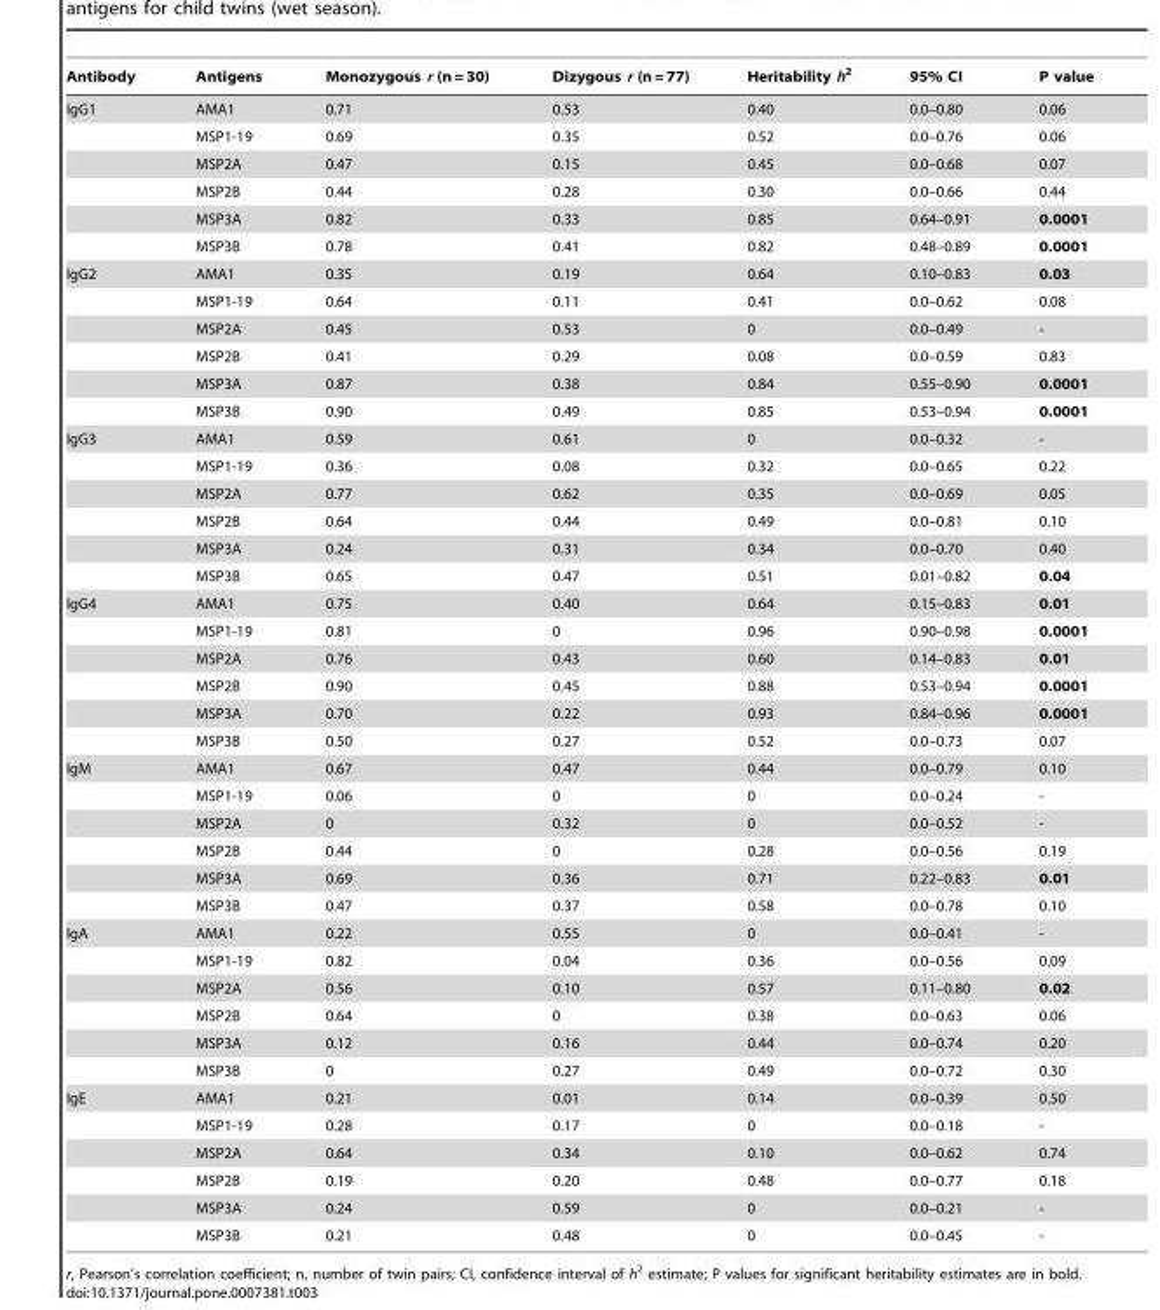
<table><thead><tr><td>Antibody</td><td>Antigens</td><td>Monozygous r (n = 30)</td><td>Dizygous r (n = 77)</td><td>Heritability h<sup>2</sup></td><td>95% CI</td><td>P value</td></tr></thead><tbody><tr><td rowspan="6">IgG1</td><td>AMA1</td><td>0.71</td><td>0.53</td><td>0.40</td><td>0.0–0.80</td><td>0.06</td></tr><tr><td>MSP1-19</td><td>0.69</td><td>0.35</td><td>0.52</td><td>0.0–0.76</td><td>0.06</td></tr><tr><td>MSP2A</td><td>0.47</td><td>0.15</td><td>0.45</td><td>0.0–0.68</td><td>0.07</td></tr><tr><td>MSP2B</td><td>0.44</td><td>0.28</td><td>0.30</td><td>0.0–0.66</td><td>0.44</td></tr><tr><td>MSP3A</td><td>0.82</td><td>0.33</td><td>0.85</td><td>0.64–0.91</td><td>0.0001</td></tr><tr><td>MSP3B</td><td>0.78</td><td>0.41</td><td>0.82</td><td>0.48–0.89</td><td>0.0001</td></tr><tr><td rowspan="6">IgG2</td><td>AMA1</td><td>0.35</td><td>0.19</td><td>0.64</td><td>0.10–0.83</td><td>0.03</td></tr><tr><td>MSP1-19</td><td>0.64</td><td>0.11</td><td>0.41</td><td>0.0–0.62</td><td>0.08</td></tr><tr><td>MSP2A</td><td>0.45</td><td>0.53</td><td>0</td><td>0.0–0.49</td><td>-</td></tr><tr><td>MSP2B</td><td>0.41</td><td>0.29</td><td>0.08</td><td>0.0–0.59</td><td>0.83</td></tr><tr><td>MSP3A</td><td>0.87</td><td>0.38</td><td>0.84</td><td>0.55–0.90</td><td>0.0001</td></tr><tr><td>MSP3B</td><td>0.90</td><td>0.49</td><td>0.85</td><td>0.53–0.94</td><td>0.0001</td></tr><tr><td rowspan="6">IgG3</td><td>AMA1</td><td>0.59</td><td>0.61</td><td>0</td><td>0.0–0.32</td><td>-</td></tr><tr><td>MSP1-19</td><td>0.36</td><td>0.08</td><td>0.32</td><td>0.0–0.65</td><td>0.22</td></tr><tr><td>MSP2A</td><td>0.77</td><td>0.62</td><td>0.35</td><td>0.0–0.69</td><td>0.05</td></tr><tr><td>MSP2B</td><td>0.64</td><td>0.44</td><td>0.49</td><td>0.0–0.81</td><td>0.10</td></tr><tr><td>MSP3A</td><td>0.24</td><td>0.31</td><td>0.34</td><td>0.0–0.70</td><td>0.40</td></tr><tr><td>MSP3B</td><td>0.65</td><td>0.47</td><td>0.51</td><td>0.01–0.82</td><td>0.04</td></tr><tr><td rowspan="6">IgG4</td><td>AMA1</td><td>0.75</td><td>0.40</td><td>0.64</td><td>0.15–0.83</td><td>0.01</td></tr><tr><td>MSP1-19</td><td>0.81</td><td>0</td><td>0.96</td><td>0.90–0.98</td><td>0.0001</td></tr><tr><td>MSP2A</td><td>0.76</td><td>0.43</td><td>0.60</td><td>0.14–0.83</td><td>0.01</td></tr><tr><td>MSP2B</td><td>0.90</td><td>0.45</td><td>0.88</td><td>0.53–0.94</td><td>0.0001</td></tr><tr><td>MSP3A</td><td>0.70</td><td>0.22</td><td>0.93</td><td>0.84–0.96</td><td>0.0001</td></tr><tr><td>MSP3B</td><td>0.50</td><td>0.27</td><td>0.52</td><td>0.0–0.73</td><td>0.07</td></tr><tr><td rowspan="6">IgM</td><td>AMA1</td><td>0.67</td><td>0.47</td><td>0.44</td><td>0.0–0.79</td><td>0.10</td></tr><tr><td>MSP1-19</td><td>0.06</td><td>0</td><td>0</td><td>0.0–0.24</td><td>-</td></tr><tr><td>MSP2A</td><td>0</td><td>0.32</td><td>0</td><td>0.0–0.52</td><td>-</td></tr><tr><td>MSP2B</td><td>0.44</td><td>0</td><td>0.28</td><td>0.0–0.56</td><td>0.19</td></tr><tr><td>MSP3A</td><td>0.69</td><td>0.36</td><td>0.71</td><td>0.22–0.83</td><td>0.01</td></tr><tr><td>MSP3B</td><td>0.47</td><td>0.37</td><td>0.58</td><td>0.0–0.78</td><td>0.10</td></tr><tr><td rowspan="6">IgA</td><td>AMA1</td><td>0.22</td><td>0.55</td><td>0</td><td>0.0–0.41</td><td>-</td></tr><tr><td>MSP1-19</td><td>0.82</td><td>0.04</td><td>0.36</td><td>0.0–0.56</td><td>0.09</td></tr><tr><td>MSP2A</td><td>0.56</td><td>0.10</td><td>0.57</td><td>0.11–0.80</td><td>0.02</td></tr><tr><td>MSP2B</td><td>0.64</td><td>0</td><td>0.38</td><td>0.0–0.63</td><td>0.06</td></tr><tr><td>MSP3A</td><td>0.12</td><td>0.16</td><td>0.44</td><td>0.0–0.74</td><td>0.20</td></tr><tr><td>MSP3B</td><td>0</td><td>0.27</td><td>0.49</td><td>0.0–0.72</td><td>0.30</td></tr><tr><td rowspan="6">IgE</td><td>AMA1</td><td>0.21</td><td>0.01</td><td>0.14</td><td>0.0–0.39</td><td>0.50</td></tr><tr><td>MSP1-19</td><td>0.28</td><td>0.17</td><td>0</td><td>0.0–0.18</td><td>-</td></tr><tr><td>MSP2A</td><td>0.64</td><td>0.34</td><td>0.10</td><td>0.0–0.62</td><td>0.74</td></tr><tr><td>MSP2B</td><td>0.19</td><td>0.20</td><td>0.48</td><td>0.0–0.77</td><td>0.18</td></tr><tr><td>MSP3A</td><td>0.24</td><td>0.59</td><td>0</td><td>0.0–0.21</td><td>-</td></tr><tr><td>MSP3B</td><td>0.21</td><td>0.48</td><td>0</td><td>0.0–0.45</td><td>-</td></tr></tbody></table>